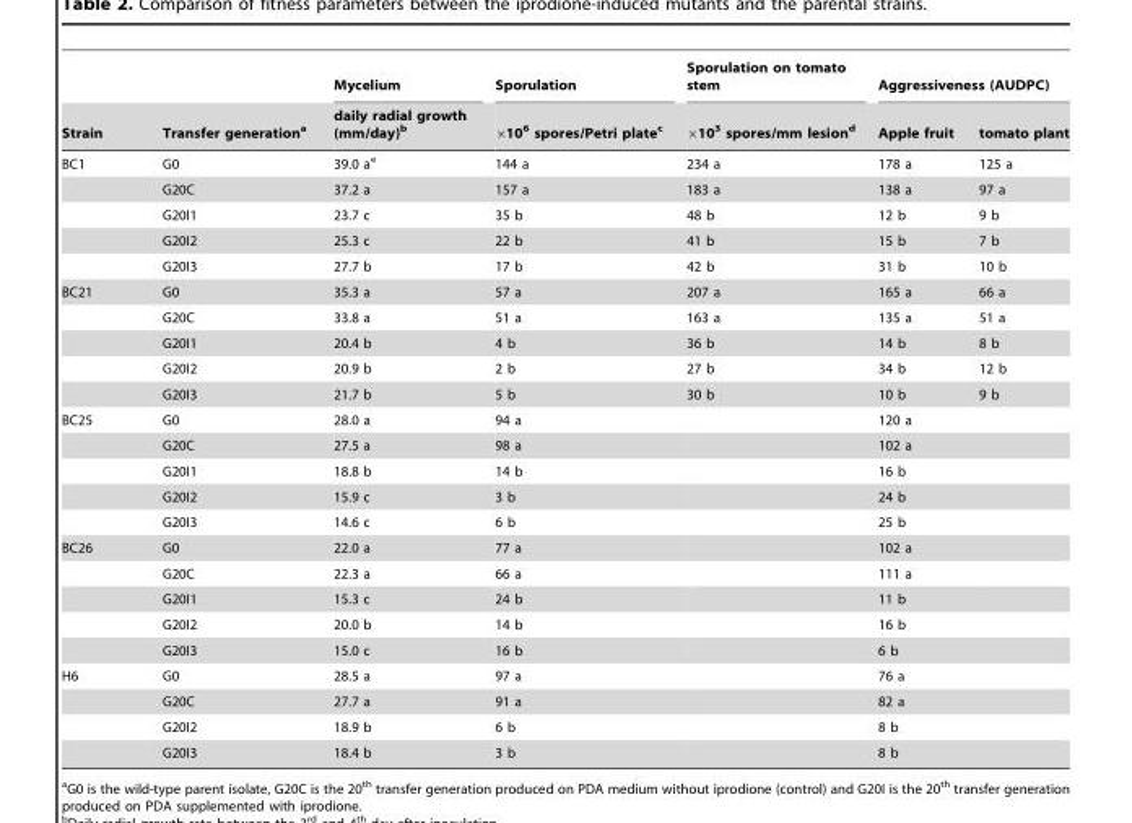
<table><thead><tr><td rowspan="2">Strain</td><td rowspan="2">Transfer generation<sup>a</sup></td><td rowspan="2">Mycelium daily radial growth (mm/day)<sup>b</sup></td><td rowspan="2">Sporulation ×10<sup>6</sup> spores/Petri plate<sup>c</sup></td><td rowspan="2">Sporulation on tomato stem ×10<sup>3</sup> spores/mm lesion<sup>d</sup></td><td colspan="2">Aggressiveness (AUDPC)</td></tr><tr><td>Apple fruit</td><td>tomato plant</td></tr></thead><tbody><tr><td rowspan="5">BC1</td><td>G0</td><td>39.0 a<sup>e</sup></td><td>144 a</td><td>234 a</td><td>178 a</td><td>125 a</td></tr><tr><td>G20C</td><td>37.2 a</td><td>157 a</td><td>183 a</td><td>138 a</td><td>97 a</td></tr><tr><td>G20I1</td><td>23.7 c</td><td>35 b</td><td>48 b</td><td>12 b</td><td>9 b</td></tr><tr><td>G20I2</td><td>25.3 c</td><td>22 b</td><td>41 b</td><td>15 b</td><td>7 b</td></tr><tr><td>G20I3</td><td>27.7 b</td><td>17 b</td><td>42 b</td><td>31 b</td><td>10 b</td></tr><tr><td rowspan="5">BC21</td><td>G0</td><td>35.3 a</td><td>57 a</td><td>207 a</td><td>165 a</td><td>66 a</td></tr><tr><td>G20C</td><td>33.8 a</td><td>51 a</td><td>163 a</td><td>135 a</td><td>51 a</td></tr><tr><td>G20I1</td><td>20.4 b</td><td>4 b</td><td>36 b</td><td>14 b</td><td>8 b</td></tr><tr><td>G20I2</td><td>20.9 b</td><td>2 b</td><td>27 b</td><td>34 b</td><td>12 b</td></tr><tr><td>G20I3</td><td>21.7 b</td><td>5 b</td><td>30 b</td><td>10 b</td><td>9 b</td></tr><tr><td rowspan="5">BC25</td><td>G0</td><td>28.0 a</td><td>94 a</td><td></td><td>120 a</td><td></td></tr><tr><td>G20C</td><td>27.5 a</td><td>98 a</td><td></td><td>102 a</td><td></td></tr><tr><td>G20I1</td><td>18.8 b</td><td>14 b</td><td></td><td>16 b</td><td></td></tr><tr><td>G20I2</td><td>15.9 c</td><td>3 b</td><td></td><td>24 b</td><td></td></tr><tr><td>G20I3</td><td>14.6 c</td><td>6 b</td><td></td><td>25 b</td><td></td></tr><tr><td rowspan="5">BC26</td><td>G0</td><td>22.0 a</td><td>77 a</td><td></td><td>102 a</td><td></td></tr><tr><td>G20C</td><td>22.3 a</td><td>66 a</td><td></td><td>111 a</td><td></td></tr><tr><td>G20I1</td><td>15.3 c</td><td>24 b</td><td></td><td>11 b</td><td></td></tr><tr><td>G20I2</td><td>20.0 b</td><td>14 b</td><td></td><td>16 b</td><td></td></tr><tr><td>G20I3</td><td>15.0 c</td><td>16 b</td><td></td><td>6 b</td><td></td></tr><tr><td rowspan="4">H6</td><td>G0</td><td>28.5 a</td><td>97 a</td><td></td><td>76 a</td><td></td></tr><tr><td>G20C</td><td>27.7 a</td><td>91 a</td><td></td><td>82 a</td><td></td></tr><tr><td>G20I2</td><td>18.9 b</td><td>6 b</td><td></td><td>8 b</td><td></td></tr><tr><td>G20I3</td><td>18.4 b</td><td>3 b</td><td></td><td>8 b</td><td></td></tr></tbody></table>